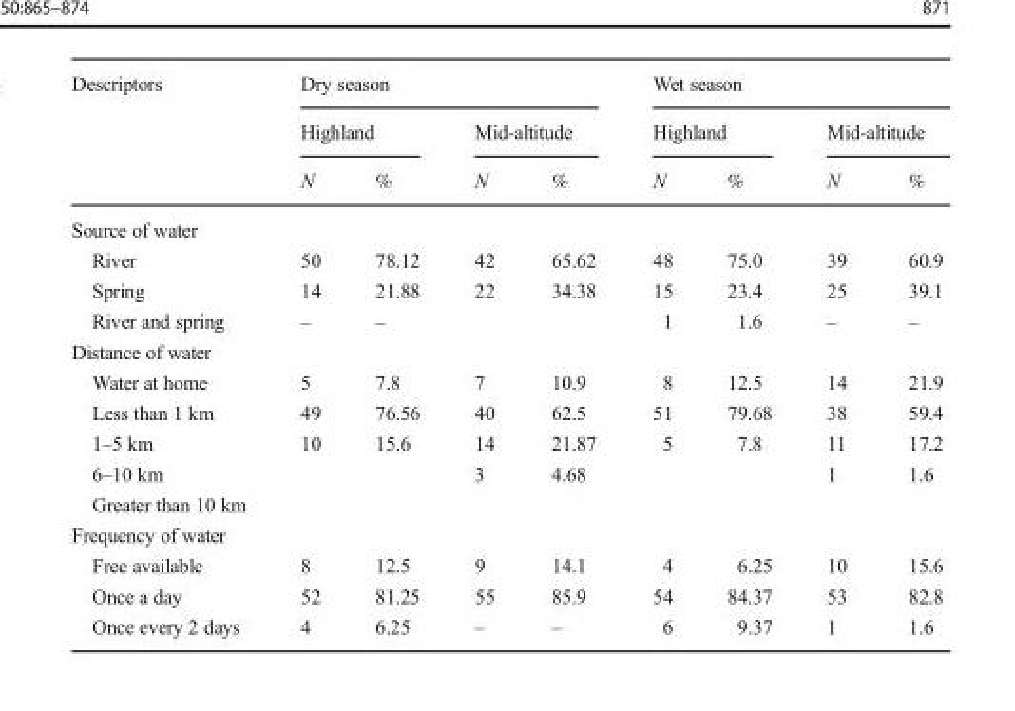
<table><thead><tr><td rowspan="3">Descriptors</td><td colspan="4">Dry season</td><td colspan="4">Wet season</td></tr><tr><td colspan="2">Highland</td><td colspan="2">Mid-altitude</td><td colspan="2">Highland</td><td colspan="2">Mid-altitude</td></tr><tr><td>N</td><td>%</td><td>N</td><td>%</td><td>N</td><td>%</td><td>N</td><td>%</td></tr></thead><tbody><tr><td colspan="9">Source of water</td></tr><tr><td>River</td><td>50</td><td>78.12</td><td>42</td><td>65.62</td><td>48</td><td>75.0</td><td>39</td><td>60.9</td></tr><tr><td>Spring</td><td>14</td><td>21.88</td><td>22</td><td>34.38</td><td>15</td><td>23.4</td><td>25</td><td>39.1</td></tr><tr><td>River and spring</td><td>–</td><td>–</td><td></td><td></td><td>1</td><td>1.6</td><td>–</td><td>–</td></tr><tr><td colspan="9">Distance of water</td></tr><tr><td>Water at home</td><td>5</td><td>7.8</td><td>7</td><td>10.9</td><td>8</td><td>12.5</td><td>14</td><td>21.9</td></tr><tr><td>Less than 1 km</td><td>49</td><td>76.56</td><td>40</td><td>62.5</td><td>51</td><td>79.68</td><td>38</td><td>59.4</td></tr><tr><td>1–5 km</td><td>10</td><td>15.6</td><td>14</td><td>21.87</td><td>5</td><td>7.8</td><td>11</td><td>17.2</td></tr><tr><td>6–10 km</td><td></td><td></td><td>3</td><td>4.68</td><td></td><td></td><td>1</td><td>1.6</td></tr><tr><td colspan="9">Greater than 10 km</td></tr><tr><td colspan="9">Frequency of water</td></tr><tr><td>Free available</td><td>8</td><td>12.5</td><td>9</td><td>14.1</td><td>4</td><td>6.25</td><td>10</td><td>15.6</td></tr><tr><td>Once a day</td><td>52</td><td>81.25</td><td>55</td><td>85.9</td><td>54</td><td>84.37</td><td>53</td><td>82.8</td></tr><tr><td>Once every 2 days</td><td>4</td><td>6.25</td><td>–</td><td>–</td><td>6</td><td>9.37</td><td>1</td><td>1.6</td></tr></tbody></table>